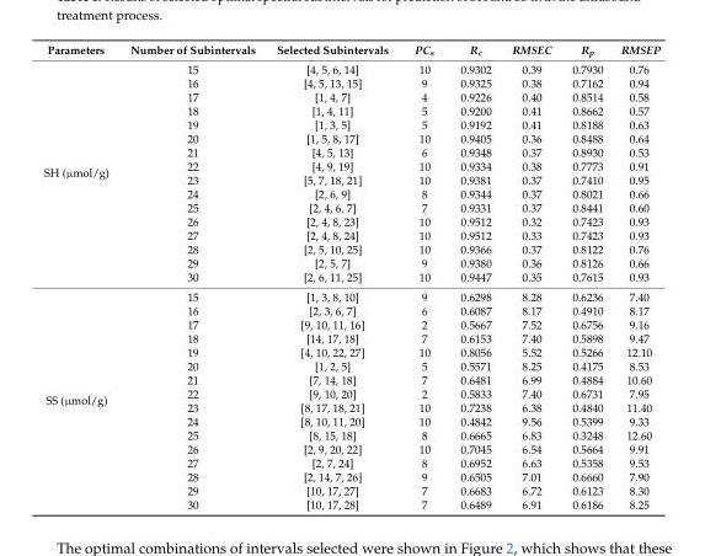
<table><thead><tr><td>Parameters</td><td>Number of Subintervals</td><td>Selected Subintervals</td><td>PC<sub>s</sub></td><td>R<sub>c</sub></td><td>RMSEC</td><td>R<sub>p</sub></td><td>RMSEP</td></tr></thead><tbody><tr><td rowspan="16">SH (µmol/g)</td><td>15</td><td>[4, 5, 6, 14]</td><td>10</td><td>0.9302</td><td>0.39</td><td>0.7930</td><td>0.76</td></tr><tr><td>16</td><td>[4, 5, 13, 15]</td><td>9</td><td>0.9325</td><td>0.38</td><td>0.7162</td><td>0.94</td></tr><tr><td>17</td><td>[1, 4, 7]</td><td>4</td><td>0.9226</td><td>0.40</td><td>0.8514</td><td>0.58</td></tr><tr><td>18</td><td>[1, 4, 11]</td><td>5</td><td>0.9200</td><td>0.41</td><td>0.8662</td><td>0.57</td></tr><tr><td>19</td><td>[1, 3, 5]</td><td>5</td><td>0.9192</td><td>0.41</td><td>0.8188</td><td>0.63</td></tr><tr><td>20</td><td>[1, 5, 8, 17]</td><td>10</td><td>0.9405</td><td>0.36</td><td>0.8488</td><td>0.64</td></tr><tr><td>21</td><td>[4, 5, 13]</td><td>6</td><td>0.9348</td><td>0.37</td><td>0.8930</td><td>0.53</td></tr><tr><td>22</td><td>[4, 9, 19]</td><td>10</td><td>0.9334</td><td>0.38</td><td>0.7773</td><td>0.91</td></tr><tr><td>23</td><td>[5, 7, 18, 21]</td><td>10</td><td>0.9381</td><td>0.37</td><td>0.7410</td><td>0.95</td></tr><tr><td>24</td><td>[2, 6, 9]</td><td>8</td><td>0.9344</td><td>0.37</td><td>0.8021</td><td>0.66</td></tr><tr><td>25</td><td>[2, 4, 6, 7]</td><td>7</td><td>0.9331</td><td>0.37</td><td>0.8441</td><td>0.60</td></tr><tr><td>26</td><td>[2, 4, 8, 23]</td><td>10</td><td>0.9512</td><td>0.32</td><td>0.7423</td><td>0.93</td></tr><tr><td>27</td><td>[2, 4, 8, 24]</td><td>10</td><td>0.9512</td><td>0.33</td><td>0.7423</td><td>0.93</td></tr><tr><td>28</td><td>[2, 5, 10, 25]</td><td>10</td><td>0.9366</td><td>0.37</td><td>0.8122</td><td>0.76</td></tr><tr><td>29</td><td>[2, 5, 7]</td><td>9</td><td>0.9380</td><td>0.36</td><td>0.8126</td><td>0.66</td></tr><tr><td>30</td><td>[2, 6, 11, 25]</td><td>10</td><td>0.9447</td><td>0.35</td><td>0.7615</td><td>0.93</td></tr><tr><td rowspan="16">SS (µmol/g)</td><td>15</td><td>[1, 3, 8, 10]</td><td>9</td><td>0.6298</td><td>8.28</td><td>0.6236</td><td>7.40</td></tr><tr><td>16</td><td>[2, 3, 6, 7]</td><td>6</td><td>0.6087</td><td>8.17</td><td>0.4910</td><td>8.17</td></tr><tr><td>17</td><td>[9, 10, 11, 16]</td><td>2</td><td>0.5667</td><td>7.52</td><td>0.6756</td><td>9.16</td></tr><tr><td>18</td><td>[14, 17, 18]</td><td>7</td><td>0.6153</td><td>7.40</td><td>0.5898</td><td>9.47</td></tr><tr><td>19</td><td>[4, 10, 22, 27]</td><td>10</td><td>0.8056</td><td>5.52</td><td>0.5266</td><td>12.10</td></tr><tr><td>20</td><td>[1, 2, 5]</td><td>5</td><td>0.5571</td><td>8.25</td><td>0.4175</td><td>8.53</td></tr><tr><td>21</td><td>[7, 14, 18]</td><td>7</td><td>0.6481</td><td>6.99</td><td>0.4884</td><td>10.60</td></tr><tr><td>22</td><td>[9, 10, 20]</td><td>2</td><td>0.5833</td><td>7.40</td><td>0.6731</td><td>7.95</td></tr><tr><td>23</td><td>[8, 17, 18, 21]</td><td>10</td><td>0.7238</td><td>6.38</td><td>0.4840</td><td>11.40</td></tr><tr><td>24</td><td>[8, 10, 11, 20]</td><td>10</td><td>0.4842</td><td>9.56</td><td>0.5399</td><td>9.33</td></tr><tr><td>25</td><td>[8, 15, 18]</td><td>8</td><td>0.6665</td><td>6.83</td><td>0.3248</td><td>12.60</td></tr><tr><td>26</td><td>[2, 9, 20, 22]</td><td>10</td><td>0.7045</td><td>6.54</td><td>0.5664</td><td>9.91</td></tr><tr><td>27</td><td>[2, 7, 24]</td><td>8</td><td>0.6952</td><td>6.63</td><td>0.5358</td><td>9.53</td></tr><tr><td>28</td><td>[2, 14, 7, 26]</td><td>9</td><td>0.6505</td><td>7.01</td><td>0.6660</td><td>7.90</td></tr><tr><td>29</td><td>[10, 17, 27]</td><td>7</td><td>0.6683</td><td>6.72</td><td>0.6123</td><td>8.30</td></tr><tr><td>30</td><td>[10, 17, 28]</td><td>7</td><td>0.6489</td><td>6.91</td><td>0.6186</td><td>8.25</td></tr></tbody></table>